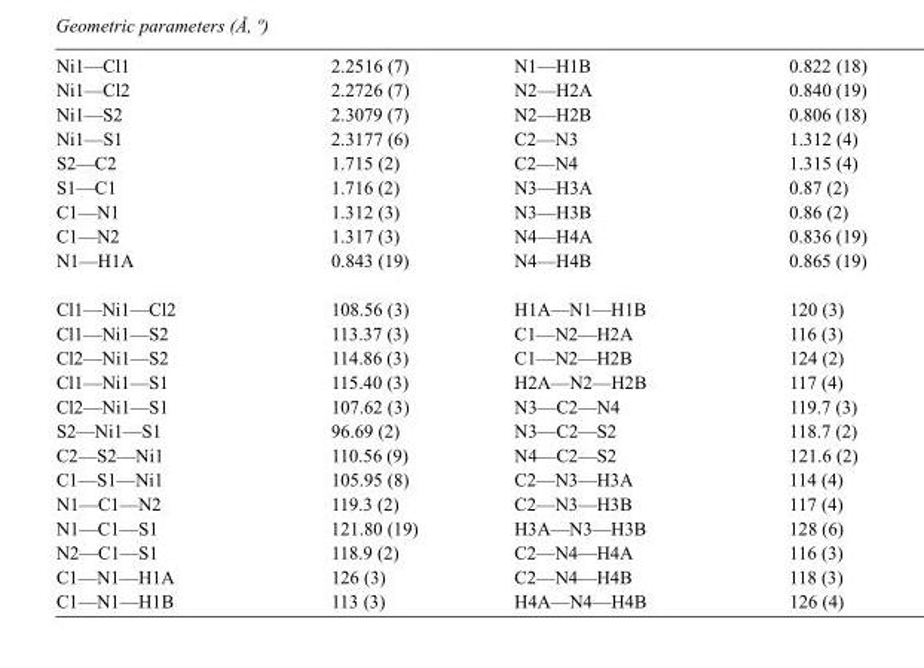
<table><tbody><tr><td>Ni1—Cl1</td><td>2.2516 (7)</td><td>N1—H1B</td><td>0.822 (18)</td></tr><tr><td>Ni1—Cl2</td><td>2.2726 (7)</td><td>N2—H2A</td><td>0.840 (19)</td></tr><tr><td>Ni1—S2</td><td>2.3079 (7)</td><td>N2—H2B</td><td>0.806 (18)</td></tr><tr><td>Ni1—S1</td><td>2.3177 (6)</td><td>C2—N3</td><td>1.312 (4)</td></tr><tr><td>S2—C2</td><td>1.715 (2)</td><td>C2—N4</td><td>1.315 (4)</td></tr><tr><td>S1—C1</td><td>1.716 (2)</td><td>N3—H3A</td><td>0.87 (2)</td></tr><tr><td>C1—N1</td><td>1.312 (3)</td><td>N3—H3B</td><td>0.86 (2)</td></tr><tr><td>C1—N2</td><td>1.317 (3)</td><td>N4—H4A</td><td>0.836 (19)</td></tr><tr><td>N1—H1A</td><td>0.843 (19)</td><td>N4—H4B</td><td>0.865 (19)</td></tr><tr><td>Cl1—Ni1—Cl2</td><td>108.56 (3)</td><td>H1A—N1—H1B</td><td>120 (3)</td></tr><tr><td>Cl1—Ni1—S2</td><td>113.37 (3)</td><td>C1—N2—H2A</td><td>116 (3)</td></tr><tr><td>Cl2—Ni1—S2</td><td>114.86 (3)</td><td>C1—N2—H2B</td><td>124 (2)</td></tr><tr><td>Cl1—Ni1—S1</td><td>115.40 (3)</td><td>H2A—N2—H2B</td><td>117 (4)</td></tr><tr><td>Cl2—Ni1—S1</td><td>107.62 (3)</td><td>N3—C2—N4</td><td>119.7 (3)</td></tr><tr><td>S2—Ni1—S1</td><td>96.69 (2)</td><td>N3—C2—S2</td><td>118.7 (2)</td></tr><tr><td>C2—S2—Ni1</td><td>110.56 (9)</td><td>N4—C2—S2</td><td>121.6 (2)</td></tr><tr><td>C1—S1—Ni1</td><td>105.95 (8)</td><td>C2—N3—H3A</td><td>114 (4)</td></tr><tr><td>N1—C1—N2</td><td>119.3 (2)</td><td>C2—N3—H3B</td><td>117 (4)</td></tr><tr><td>N1—C1—S1</td><td>121.80 (19)</td><td>H3A—N3—H3B</td><td>128 (6)</td></tr><tr><td>N2—C1—S1</td><td>118.9 (2)</td><td>C2—N4—H4A</td><td>116 (3)</td></tr><tr><td>C1—N1—H1A</td><td>126 (3)</td><td>C2—N4—H4B</td><td>118 (3)</td></tr><tr><td>C1—N1—H1B</td><td>113 (3)</td><td>H4A—N4—H4B</td><td>126 (4)</td></tr></tbody></table>